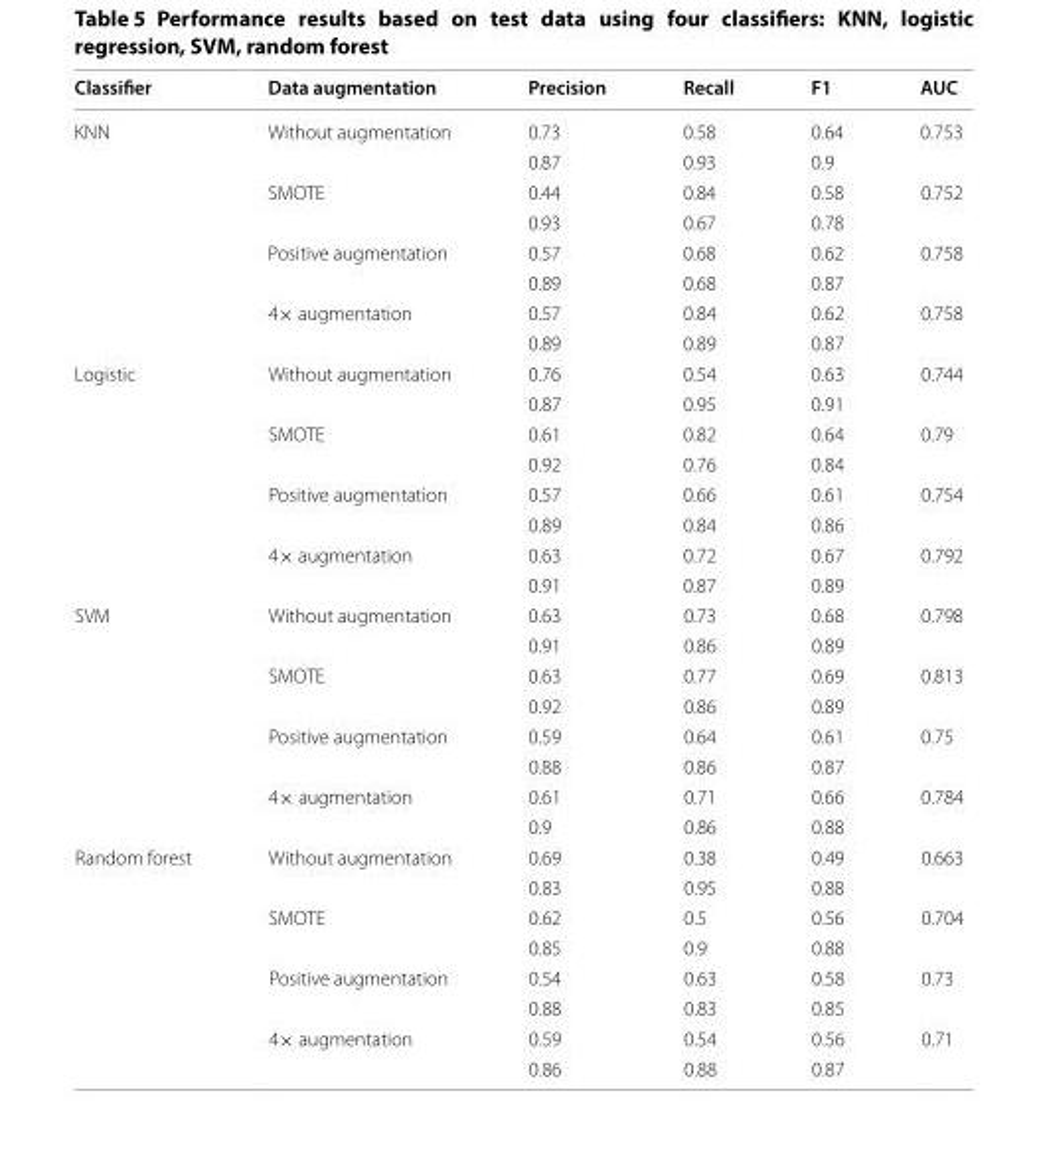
<table><thead><tr><td>Classifier</td><td>Data augmentation</td><td>Precision</td><td>Recall</td><td>F1</td><td>AUC</td></tr></thead><tbody><tr><td rowspan="8">KNN</td><td rowspan="2">Without augmentation</td><td>0.73</td><td>0.58</td><td>0.64</td><td rowspan="2">0.753</td></tr><tr><td>0.87</td><td>0.93</td><td>0.9</td></tr><tr><td rowspan="2">SMOTE</td><td>0.44</td><td>0.84</td><td>0.58</td><td rowspan="2">0.752</td></tr><tr><td>0.93</td><td>0.67</td><td>0.78</td></tr><tr><td rowspan="2">Positive augmentation</td><td>0.57</td><td>0.68</td><td>0.62</td><td rowspan="2">0.758</td></tr><tr><td>0.89</td><td>0.68</td><td>0.87</td></tr><tr><td rowspan="2">4× augmentation</td><td>0.57</td><td>0.84</td><td>0.62</td><td rowspan="2">0.758</td></tr><tr><td>0.89</td><td>0.89</td><td>0.87</td></tr><tr><td rowspan="8">Logistic</td><td rowspan="2">Without augmentation</td><td>0.76</td><td>0.54</td><td>0.63</td><td rowspan="2">0.744</td></tr><tr><td>0.87</td><td>0.95</td><td>0.91</td></tr><tr><td rowspan="2">SMOTE</td><td>0.61</td><td>0.82</td><td>0.64</td><td rowspan="2">0.79</td></tr><tr><td>0.92</td><td>0.76</td><td>0.84</td></tr><tr><td rowspan="2">Positive augmentation</td><td>0.57</td><td>0.66</td><td>0.61</td><td rowspan="2">0.754</td></tr><tr><td>0.89</td><td>0.84</td><td>0.86</td></tr><tr><td rowspan="2">4× augmentation</td><td>0.63</td><td>0.72</td><td>0.67</td><td rowspan="2">0.792</td></tr><tr><td>0.91</td><td>0.87</td><td>0.89</td></tr><tr><td rowspan="8">SVM</td><td rowspan="2">Without augmentation</td><td>0.63</td><td>0.73</td><td>0.68</td><td rowspan="2">0.798</td></tr><tr><td>0.91</td><td>0.86</td><td>0.89</td></tr><tr><td rowspan="2">SMOTE</td><td>0.63</td><td>0.77</td><td>0.69</td><td rowspan="2">0.813</td></tr><tr><td>0.92</td><td>0.86</td><td>0.89</td></tr><tr><td rowspan="2">Positive augmentation</td><td>0.59</td><td>0.64</td><td>0.61</td><td rowspan="2">0.75</td></tr><tr><td>0.88</td><td>0.86</td><td>0.87</td></tr><tr><td rowspan="2">4× augmentation</td><td>0.61</td><td>0.71</td><td>0.66</td><td rowspan="2">0.784</td></tr><tr><td>0.9</td><td>0.86</td><td>0.88</td></tr><tr><td rowspan="8">Random forest</td><td rowspan="2">Without augmentation</td><td>0.69</td><td>0.38</td><td>0.49</td><td rowspan="2">0.663</td></tr><tr><td>0.83</td><td>0.95</td><td>0.88</td></tr><tr><td rowspan="2">SMOTE</td><td>0.62</td><td>0.5</td><td>0.56</td><td rowspan="2">0.704</td></tr><tr><td>0.85</td><td>0.9</td><td>0.88</td></tr><tr><td rowspan="2">Positive augmentation</td><td>0.54</td><td>0.63</td><td>0.58</td><td rowspan="2">0.73</td></tr><tr><td>0.88</td><td>0.83</td><td>0.85</td></tr><tr><td rowspan="2">4× augmentation</td><td>0.59</td><td>0.54</td><td>0.56</td><td rowspan="2">0.71</td></tr><tr><td>0.86</td><td>0.88</td><td>0.87</td></tr></tbody></table>